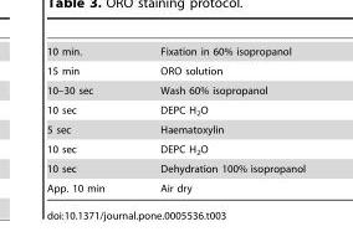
<table><tbody><tr><td>10 min.</td><td>Fixation in 60% isopropanol</td></tr><tr><td>15 min</td><td>ORO solution</td></tr><tr><td>10–30 sec</td><td>Wash 60% isopropanol</td></tr><tr><td>10 sec</td><td>DEPC H<sub>2</sub>O</td></tr><tr><td>5 sec</td><td>Haematoxylin</td></tr><tr><td>10 sec</td><td>DEPC H<sub>2</sub>O</td></tr><tr><td>10 sec</td><td>Dehydration 100% isopropanol</td></tr><tr><td>App. 10 min</td><td>Air dry</td></tr></tbody></table>